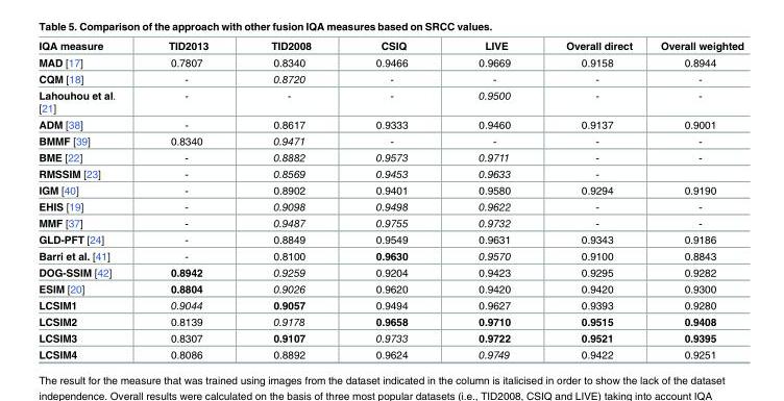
<table><thead><tr><td>IQA measure</td><td>TID2013</td><td>TID2008</td><td>CSIQ</td><td>LIVE</td><td>Overall direct</td><td>Overall weighted</td></tr></thead><tbody><tr><td>MAD [17]</td><td>0.7807</td><td>0.8340</td><td>0.9466</td><td>0.9669</td><td>0.9158</td><td>0.8944</td></tr><tr><td>CQM [18]</td><td>-</td><td>0.8720</td><td>-</td><td>-</td><td>-</td><td>-</td></tr><tr><td>Lahouhou et al. [21]</td><td>-</td><td>-</td><td>-</td><td>0.9500</td><td>-</td><td>-</td></tr><tr><td>ADM [38]</td><td>-</td><td>0.8617</td><td>0.9333</td><td>0.9460</td><td>0.9137</td><td>0.9001</td></tr><tr><td>BMMF [39]</td><td>0.8340</td><td>0.9471</td><td>-</td><td>-</td><td>-</td><td>-</td></tr><tr><td>BME [22]</td><td>-</td><td>0.8882</td><td>0.9573</td><td>0.9711</td><td>-</td><td>-</td></tr><tr><td>RMSSIM [23]</td><td>-</td><td>0.8569</td><td>0.9453</td><td>0.9633</td><td>-</td><td></td></tr><tr><td>IGM [40]</td><td>-</td><td>0.8902</td><td>0.9401</td><td>0.9580</td><td>0.9294</td><td>0.9190</td></tr><tr><td>EHIS [19]</td><td>-</td><td>0.9098</td><td>0.9498</td><td>0.9622</td><td>-</td><td>-</td></tr><tr><td>MMF [37]</td><td>-</td><td>0.9487</td><td>0.9755</td><td>0.9732</td><td>-</td><td>-</td></tr><tr><td>GLD-PFT [24]</td><td>-</td><td>0.8849</td><td>0.9549</td><td>0.9631</td><td>0.9343</td><td>0.9186</td></tr><tr><td>Barri et al. [41]</td><td>-</td><td>0.8100</td><td>0.9630</td><td>0.9570</td><td>0.9100</td><td>0.8843</td></tr><tr><td>DOG-SSIM [42]</td><td>0.8942</td><td>0.9259</td><td>0.9204</td><td>0.9423</td><td>0.9295</td><td>0.9282</td></tr><tr><td>ESIM [20]</td><td>0.8804</td><td>0.9026</td><td>0.9620</td><td>0.9420</td><td>0.9420</td><td>0.9300</td></tr><tr><td>LCSIM1</td><td>0.9044</td><td>0.9057</td><td>0.9494</td><td>0.9627</td><td>0.9393</td><td>0.9280</td></tr><tr><td>LCSIM2</td><td>0.8139</td><td>0.9178</td><td>0.9658</td><td>0.9710</td><td>0.9515</td><td>0.9408</td></tr><tr><td>LCSIM3</td><td>0.8307</td><td>0.9107</td><td>0.9733</td><td>0.9722</td><td>0.9521</td><td>0.9395</td></tr><tr><td>LCSIM4</td><td>0.8086</td><td>0.8892</td><td>0.9624</td><td>0.9749</td><td>0.9422</td><td>0.9251</td></tr></tbody></table>